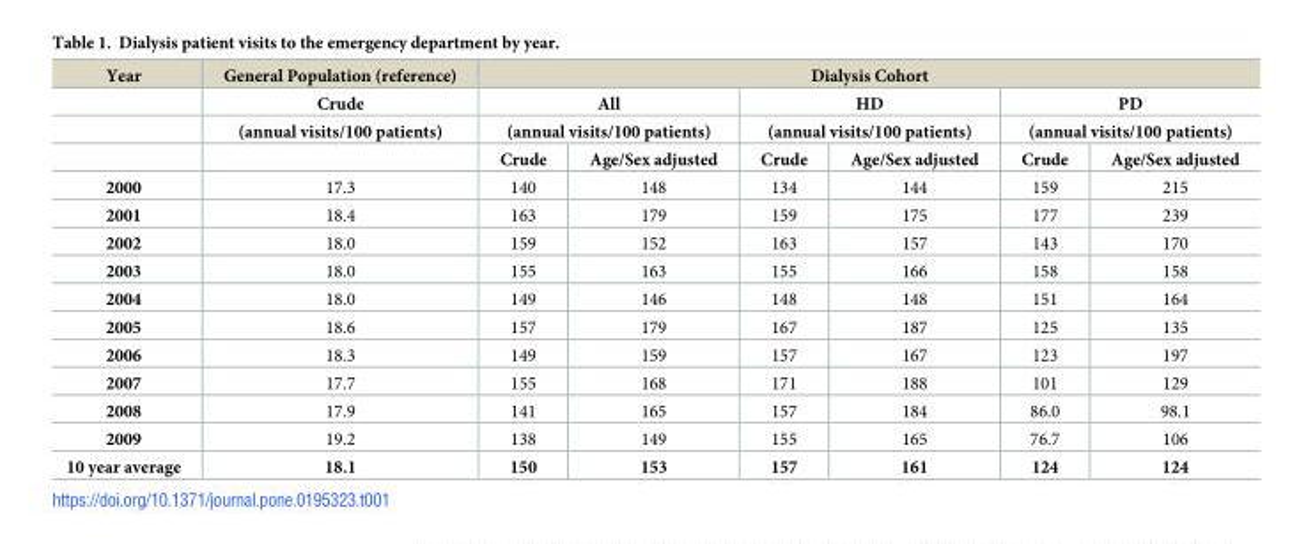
<table><thead><tr><td rowspan="4">Year</td><td rowspan="4">General Population (reference) Crude (annual visits/100 patients)</td><td colspan="6">Dialysis Cohort</td></tr><tr><td rowspan="2" colspan="2">All (annual visits/100 patients)</td><td rowspan="2" colspan="2">HD (annual visits/100 patients)</td><td rowspan="2" colspan="2">PD (annual visits/100 patients)</td></tr><tr></tr><tr><td>Crude</td><td>Age/Sex adjusted</td><td>Crude</td><td>Age/Sex adjusted</td><td>Crude</td><td>Age/Sex adjusted</td></tr></thead><tbody><tr><td>2000</td><td>17.3</td><td>140</td><td>148</td><td>134</td><td>144</td><td>159</td><td>215</td></tr><tr><td>2001</td><td>18.4</td><td>163</td><td>179</td><td>159</td><td>175</td><td>177</td><td>239</td></tr><tr><td>2002</td><td>18.0</td><td>159</td><td>152</td><td>163</td><td>157</td><td>143</td><td>170</td></tr><tr><td>2003</td><td>18.0</td><td>155</td><td>163</td><td>155</td><td>166</td><td>158</td><td>158</td></tr><tr><td>2004</td><td>18.0</td><td>149</td><td>146</td><td>148</td><td>148</td><td>151</td><td>164</td></tr><tr><td>2005</td><td>18.6</td><td>157</td><td>179</td><td>167</td><td>187</td><td>125</td><td>135</td></tr><tr><td>2006</td><td>18.3</td><td>149</td><td>159</td><td>157</td><td>167</td><td>123</td><td>197</td></tr><tr><td>2007</td><td>17.7</td><td>155</td><td>168</td><td>171</td><td>188</td><td>101</td><td>129</td></tr><tr><td>2008</td><td>17.9</td><td>141</td><td>165</td><td>157</td><td>184</td><td>86.0</td><td>98.1</td></tr><tr><td>2009</td><td>19.2</td><td>138</td><td>149</td><td>155</td><td>165</td><td>76.7</td><td>106</td></tr><tr><td>10 year average</td><td>18.1</td><td>150</td><td>153</td><td>157</td><td>161</td><td>124</td><td>124</td></tr></tbody></table>